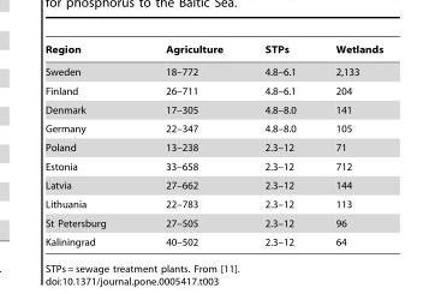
<table><thead><tr><td>Region</td><td>Agriculture</td><td>STPs</td><td>Wetlands</td></tr></thead><tbody><tr><td>Sweden</td><td>18–772</td><td>4.8–6.1</td><td>2,133</td></tr><tr><td>Finland</td><td>26–711</td><td>4.8–6.1</td><td>204</td></tr><tr><td>Denmark</td><td>17–305</td><td>4.8–8.0</td><td>141</td></tr><tr><td>Germany</td><td>22–347</td><td>4.8–8.0</td><td>105</td></tr><tr><td>Poland</td><td>13–238</td><td>2.3–12</td><td>71</td></tr><tr><td>Estonia</td><td>33–658</td><td>2.3–12</td><td>712</td></tr><tr><td>Latvia</td><td>27–662</td><td>2.3–12</td><td>144</td></tr><tr><td>Lithuania</td><td>22–783</td><td>2.3–12</td><td>113</td></tr><tr><td>St Petersburg</td><td>27–505</td><td>2.3–12</td><td>96</td></tr><tr><td>Kaliningrad</td><td>40–502</td><td>2.3–12</td><td>64</td></tr></tbody></table>